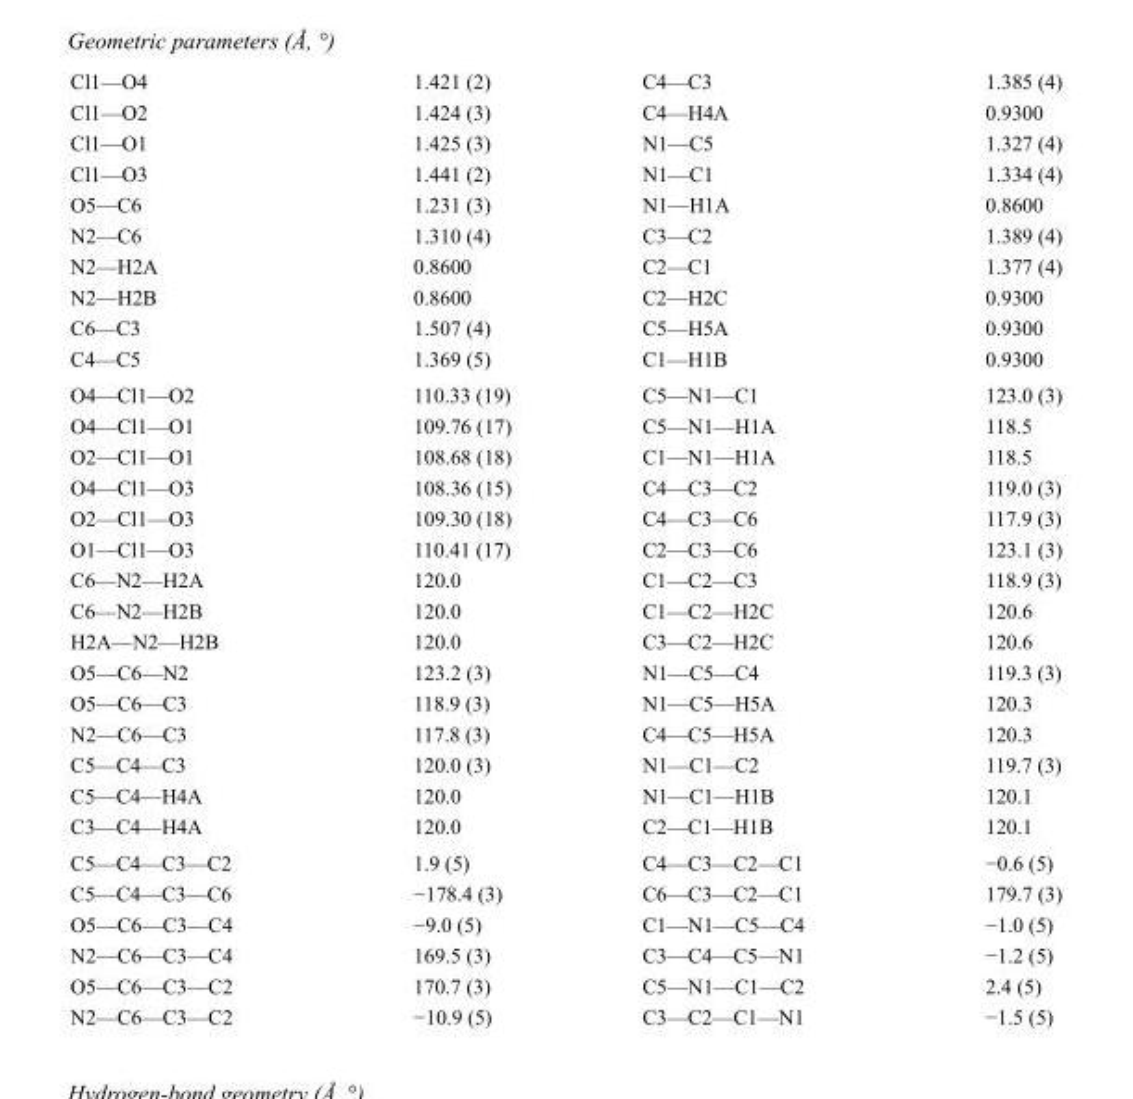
<table><tbody><tr><td>Cl1—O4</td><td>1.421 (2)</td><td>C4—C3</td><td>1.385 (4)</td></tr><tr><td>Cl1—O2</td><td>1.424 (3)</td><td>C4—H4A</td><td>0.9300</td></tr><tr><td>Cl1—O1</td><td>1.425 (3)</td><td>N1—C5</td><td>1.327 (4)</td></tr><tr><td>Cl1—O3</td><td>1.441 (2)</td><td>N1—C1</td><td>1.334 (4)</td></tr><tr><td>O5—C6</td><td>1.231 (3)</td><td>N1—H1A</td><td>0.8600</td></tr><tr><td>N2—C6</td><td>1.310 (4)</td><td>C3—C2</td><td>1.389 (4)</td></tr><tr><td>N2—H2A</td><td>0.8600</td><td>C2—C1</td><td>1.377 (4)</td></tr><tr><td>N2—H2B</td><td>0.8600</td><td>C2—H2C</td><td>0.9300</td></tr><tr><td>C6—C3</td><td>1.507 (4)</td><td>C5—H5A</td><td>0.9300</td></tr><tr><td>C4—C5</td><td>1.369 (5)</td><td>C1—H1B</td><td>0.9300</td></tr><tr><td>O4—Cl1—O2</td><td>110.33 (19)</td><td>C5—N1—C1</td><td>123.0 (3)</td></tr><tr><td>O4—Cl1—O1</td><td>109.76 (17)</td><td>C5—N1—H1A</td><td>118.5</td></tr><tr><td>O2—Cl1—O1</td><td>108.68 (18)</td><td>C1—N1—H1A</td><td>118.5</td></tr><tr><td>O4—Cl1—O3</td><td>108.36 (15)</td><td>C4—C3—C2</td><td>119.0 (3)</td></tr><tr><td>O2—Cl1—O3</td><td>109.30 (18)</td><td>C4—C3—C6</td><td>117.9 (3)</td></tr><tr><td>O1—Cl1—O3</td><td>110.41 (17)</td><td>C2—C3—C6</td><td>123.1 (3)</td></tr><tr><td>C6—N2—H2A</td><td>120.0</td><td>C1—C2—C3</td><td>118.9 (3)</td></tr><tr><td>C6—N2—H2B</td><td>120.0</td><td>C1—C2—H2C</td><td>120.6</td></tr><tr><td>H2A—N2—H2B</td><td>120.0</td><td>C3—C2—H2C</td><td>120.6</td></tr><tr><td>O5—C6—N2</td><td>123.2 (3)</td><td>N1—C5—C4</td><td>119.3 (3)</td></tr><tr><td>O5—C6—C3</td><td>118.9 (3)</td><td>N1—C5—H5A</td><td>120.3</td></tr><tr><td>N2—C6—C3</td><td>117.8 (3)</td><td>C4—C5—H5A</td><td>120.3</td></tr><tr><td>C5—C4—C3</td><td>120.0 (3)</td><td>N1—C1—C2</td><td>119.7 (3)</td></tr><tr><td>C5—C4—H4A</td><td>120.0</td><td>N1—C1—H1B</td><td>120.1</td></tr><tr><td>C3—C4—H4A</td><td>120.0</td><td>C2—C1—H1B</td><td>120.1</td></tr><tr><td>C5—C4—C3—C2</td><td>1.9 (5)</td><td>C4—C3—C2—C1</td><td>−0.6 (5)</td></tr><tr><td>C5—C4—C3—C6</td><td>−178.4 (3)</td><td>C6—C3—C2—C1</td><td>179.7 (3)</td></tr><tr><td>O5—C6—C3—C4</td><td>−9.0 (5)</td><td>C1—N1—C5—C4</td><td>−1.0 (5)</td></tr><tr><td>N2—C6—C3—C4</td><td>169.5 (3)</td><td>C3—C4—C5—N1</td><td>−1.2 (5)</td></tr><tr><td>O5—C6—C3—C2</td><td>170.7 (3)</td><td>C5—N1—C1—C2</td><td>2.4 (5)</td></tr><tr><td>N2—C6—C3—C2</td><td>−10.9 (5)</td><td>C3—C2—C1—N1</td><td>−1.5 (5)</td></tr></tbody></table>